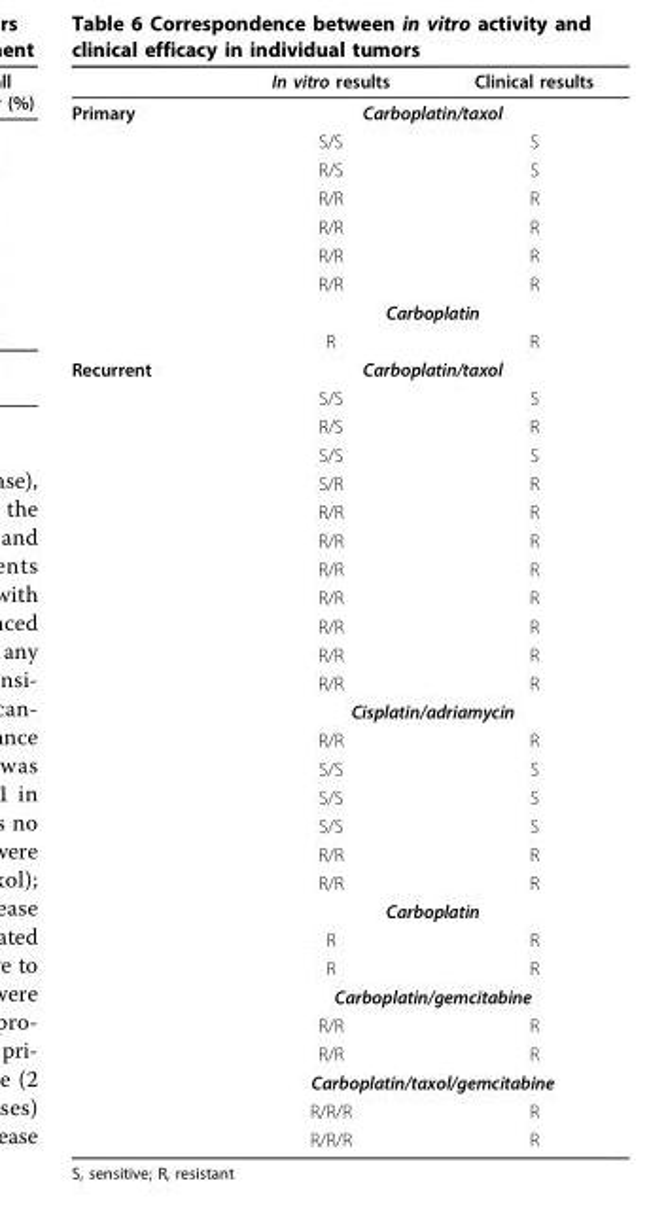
<table><thead><tr><td></td><td>In vitro results</td><td>Clinical results</td></tr></thead><tbody><tr><td rowspan="9">Primary</td><td colspan="2">Carboplatin/taxol</td></tr><tr><td>S/S</td><td>S</td></tr><tr><td>R/S</td><td>S</td></tr><tr><td>R/R</td><td>R</td></tr><tr><td>R/R</td><td>R</td></tr><tr><td>R/R</td><td>R</td></tr><tr><td>R/R</td><td>R</td></tr><tr><td colspan="2">Carboplatin</td></tr><tr><td>R</td><td>R</td></tr><tr><td rowspan="28">Recurrent</td><td colspan="2">Carboplatin/taxol</td></tr><tr><td>S/S</td><td>S</td></tr><tr><td>R/S</td><td>R</td></tr><tr><td>S/S</td><td>S</td></tr><tr><td>S/R</td><td>R</td></tr><tr><td>R/R</td><td>R</td></tr><tr><td>R/R</td><td>R</td></tr><tr><td>R/R</td><td>R</td></tr><tr><td>R/R</td><td>R</td></tr><tr><td>R/R</td><td>R</td></tr><tr><td>R/R</td><td>R</td></tr><tr><td>R/R</td><td>R</td></tr><tr><td colspan="2">Cisplatin/adriamycin</td></tr><tr><td>R/R</td><td>R</td></tr><tr><td>S/S</td><td>S</td></tr><tr><td>S/S</td><td>S</td></tr><tr><td>S/S</td><td>S</td></tr><tr><td>R/R</td><td>R</td></tr><tr><td>R/R</td><td>R</td></tr><tr><td colspan="2">Carboplatin</td></tr><tr><td>R</td><td>R</td></tr><tr><td>R</td><td>R</td></tr><tr><td colspan="2">Carboplatin/gemcitabine</td></tr><tr><td>R/R</td><td>R</td></tr><tr><td>R/R</td><td>R</td></tr><tr><td colspan="2">Carboplatin/taxol/gemcitabine</td></tr><tr><td>R/R/R</td><td>R</td></tr><tr><td>R/R/R</td><td>R</td></tr></tbody></table>